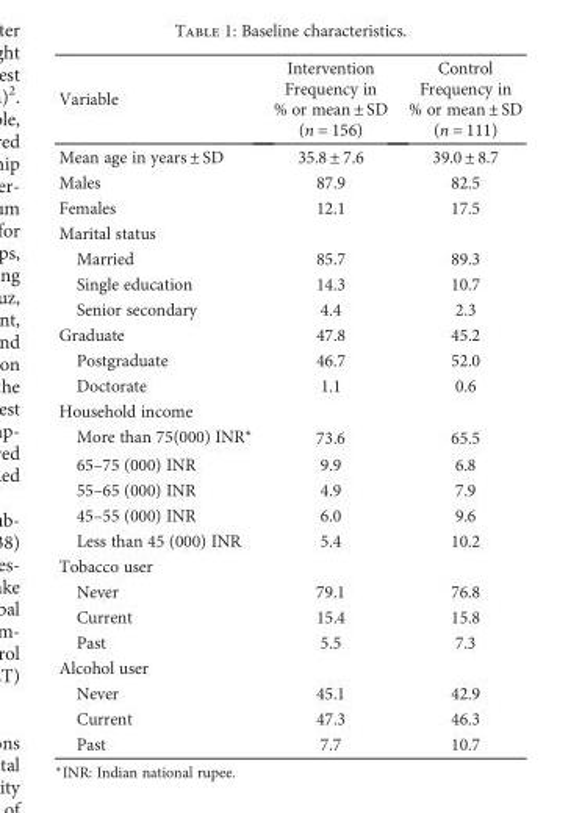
<table><thead><tr><td>Variable</td><td>Intervention Frequency in % or mean ± SD (n = 156)</td><td>Control Frequency in % or mean ± SD (n = 111)</td></tr></thead><tbody><tr><td>Mean age in years ± SD</td><td>35.8 ± 7.6</td><td>39.0 ± 8.7</td></tr><tr><td>Males</td><td>87.9</td><td>82.5</td></tr><tr><td>Females</td><td>12.1</td><td>17.5</td></tr><tr><td colspan="3">Marital status</td></tr><tr><td>Married</td><td>85.7</td><td>89.3</td></tr><tr><td>Single education</td><td>14.3</td><td>10.7</td></tr><tr><td>Senior secondary</td><td>4.4</td><td>2.3</td></tr><tr><td>Graduate</td><td>47.8</td><td>45.2</td></tr><tr><td>Postgraduate</td><td>46.7</td><td>52.0</td></tr><tr><td>Doctorate</td><td>1.1</td><td>0.6</td></tr><tr><td colspan="3">Household income</td></tr><tr><td>More than 75(000) INR∗</td><td>73.6</td><td>65.5</td></tr><tr><td>65–75 (000) INR</td><td>9.9</td><td>6.8</td></tr><tr><td>55–65 (000) INR</td><td>4.9</td><td>7.9</td></tr><tr><td>45–55 (000) INR</td><td>6.0</td><td>9.6</td></tr><tr><td>Less than 45 (000) INR</td><td>5.4</td><td>10.2</td></tr><tr><td colspan="3">Tobacco user</td></tr><tr><td>Never</td><td>79.1</td><td>76.8</td></tr><tr><td>Current</td><td>15.4</td><td>15.8</td></tr><tr><td>Past</td><td>5.5</td><td>7.3</td></tr><tr><td colspan="3">Alcohol user</td></tr><tr><td>Never</td><td>45.1</td><td>42.9</td></tr><tr><td>Current</td><td>47.3</td><td>46.3</td></tr><tr><td>Past</td><td>7.7</td><td>10.7</td></tr></tbody></table>